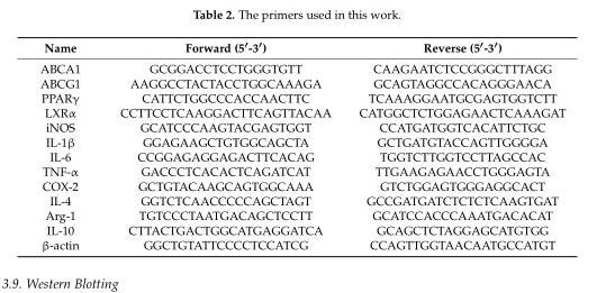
<table><thead><tr><td>Name</td><td>Forward (5′-3′)</td><td>Reverse (5′-3′)</td></tr></thead><tbody><tr><td>ABCA1</td><td>GCGGACCTCCTGGGTGTT</td><td>CAAGAATCTCCGGGCTTTAGG</td></tr><tr><td>ABCG1</td><td>AAGGCCTACTACCTGGCAAAGA</td><td>GCAGTAGGCCACAGGGAACA</td></tr><tr><td>PPARγ</td><td>CATTCTGGCCCACCAACTTC</td><td>TCAAAGGAATGCGAGTGGTCTT</td></tr><tr><td>LXRα</td><td>CCTTCCTCAAGGACTTCAGTTACAA</td><td>CATGGCTCTGGAGAACTCAAAGAT</td></tr><tr><td>iNOS</td><td>GCATCCCAAGTACGAGTGGT</td><td>CCATGATGGTCACATTCTGC</td></tr><tr><td>IL-1β</td><td>GGAGAAGCTGTGGCAGCTA</td><td>GCTGATGTACCAGTTGGGGA</td></tr><tr><td>IL-6</td><td>CCGGAGAGGAGACTTCACAG</td><td>TGGTCTTGGTCCTTAGCCAC</td></tr><tr><td>TNF-α</td><td>GACCCTCACACTCAGATCAT</td><td>TTGAAGAGAACCTGGGAGTA</td></tr><tr><td>COX-2</td><td>GCTGTACAAGCAGTGGCAAA</td><td>GTCTGGAGTGGGAGGCACT</td></tr><tr><td>IL-4</td><td>GGTCTCAACCCCCAGCTAGT</td><td>GCCGATGATCTCTCTCAAGTGAT</td></tr><tr><td>Arg-1</td><td>TGTCCCTAATGACAGCTCCTT</td><td>GCATCCACCCAAATGACACAT</td></tr><tr><td>IL-10</td><td>CTTACTGACTGGCATGAGGATCA</td><td>GCAGCTCTAGGAGCATGTGG</td></tr><tr><td>β-actin</td><td>GGCTGTATTCCCCTCCATCG</td><td>CCAGTTGGTAACAATGCCATGT</td></tr></tbody></table>